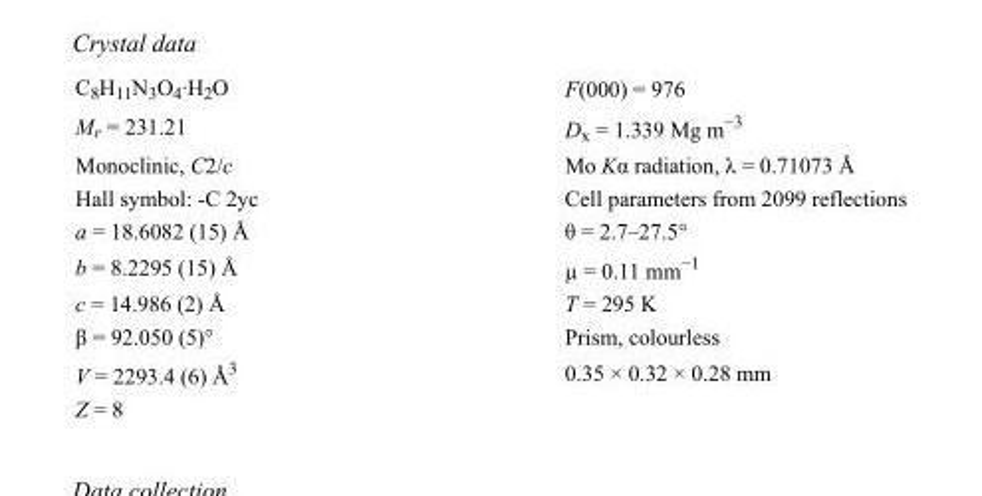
<table><tbody><tr><td>C<sub>8</sub>H<sub>11</sub>N<sub>3</sub>O<sub>4</sub>·H<sub>2</sub>O</td><td>F(000) = 976</td></tr><tr><td>M<sub>r</sub> = 231.21</td><td>D<sub>x</sub> = 1.339 Mg m<sup>−3</sup></td></tr><tr><td>Monoclinic, C2/c</td><td>Mo Kα radiation, λ = 0.71073 Å</td></tr><tr><td>Hall symbol: -C 2yc</td><td>Cell parameters from 2099 reflections</td></tr><tr><td>a = 18.6082 (15) Å</td><td>θ = 2.7–27.5°</td></tr><tr><td>b = 8.2295 (15) Å</td><td>µ = 0.11 mm<sup>−1</sup></td></tr><tr><td>c = 14.986 (2) Å</td><td>T = 295 K</td></tr><tr><td>β = 92.050 (5)°</td><td>Prism, colourless</td></tr><tr><td>V = 2293.4 (6) Å<sup>3</sup></td><td>0.35 × 0.32 × 0.28 mm</td></tr><tr><td>Z = 8</td><td></td></tr></tbody></table>